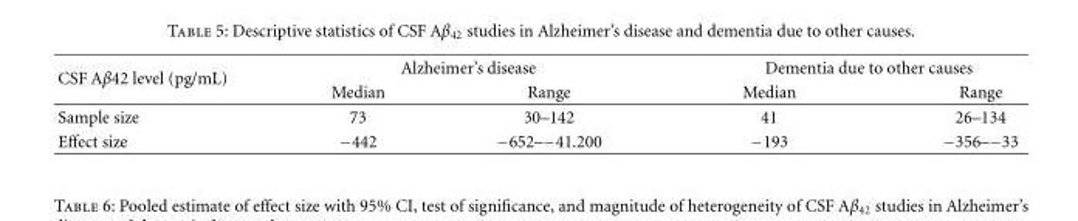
<table><thead><tr><td rowspan="2">CSF Aβ42 level (pg/mL)</td><td colspan="2">Alzheimer’s disease</td><td colspan="2">Dementia due to other causes</td></tr><tr><td>Median</td><td>Range</td><td>Median</td><td>Range</td></tr></thead><tbody><tr><td>Sample size</td><td>73</td><td>30–142</td><td>41</td><td>26–134</td></tr><tr><td>Effect size</td><td>−442</td><td>−652–−41.200</td><td>−193</td><td>−356–−33</td></tr></tbody></table>